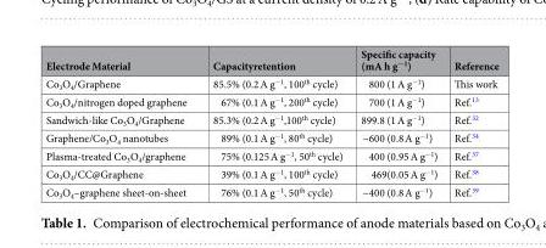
<table><thead><tr><td>Electrode Material</td><td>Capacityretention</td><td>Specific capacity (mA h g<sup>−1</sup>)</td><td>Reference</td></tr></thead><tbody><tr><td>Co<sub>3</sub>O<sub>4</sub>/Graphene</td><td>85.5% (0.2 A g<sup>−1</sup>, 100<sup>th</sup> cycle)</td><td>800 (1 A g<sup>−1</sup>)</td><td>This work</td></tr><tr><td>Co<sub>3</sub>O<sub>4</sub>/nitrogen doped graphene</td><td>67% (0.1 A g<sup>−1</sup>, 200<sup>th</sup> cycle)</td><td>700 (1 A g<sup>−1</sup>)</td><td>Ref.<sup>13</sup></td></tr><tr><td>Sandwich-like Co<sub>3</sub>O<sub>4</sub>/Graphene</td><td>85.3% (0.2 A g<sup>−1</sup>,100<sup>th</sup> cycle)</td><td>899.8 (1 A g<sup>−1</sup>)</td><td>Ref.<sup>32</sup></td></tr><tr><td>Graphene/Co<sub>3</sub>O<sub>4</sub> nanotubes</td><td>89% (0.1 A g<sup>−1</sup>, 80<sup>th</sup> cycle)</td><td>~600 (0.8 A g<sup>−1</sup>)</td><td>Ref.<sup>34</sup></td></tr><tr><td>Plasma-treated Co<sub>3</sub>O<sub>4</sub>/graphene</td><td>75% (0.125 A g<sup>−1</sup>, 50<sup>th</sup> cycle)</td><td>400 (0.95 A g<sup>−1</sup>)</td><td>Ref.<sup>37</sup></td></tr><tr><td>Co<sub>3</sub>O<sub>4</sub>/CC@Graphene</td><td>39% (0.1 A g<sup>−1</sup>, 100<sup>th</sup> cycle)</td><td>469(0.05 A g<sup>−1</sup>)</td><td>Ref.<sup>38</sup></td></tr><tr><td>Co<sub>3</sub>O<sub>4</sub>–graphene sheet-on-sheet</td><td>76% (0.1 A g<sup>−1</sup>, 50<sup>th</sup> cycle)</td><td>~400 (0.8 A g<sup>−1</sup>)</td><td>Ref.<sup>39</sup></td></tr></tbody></table>